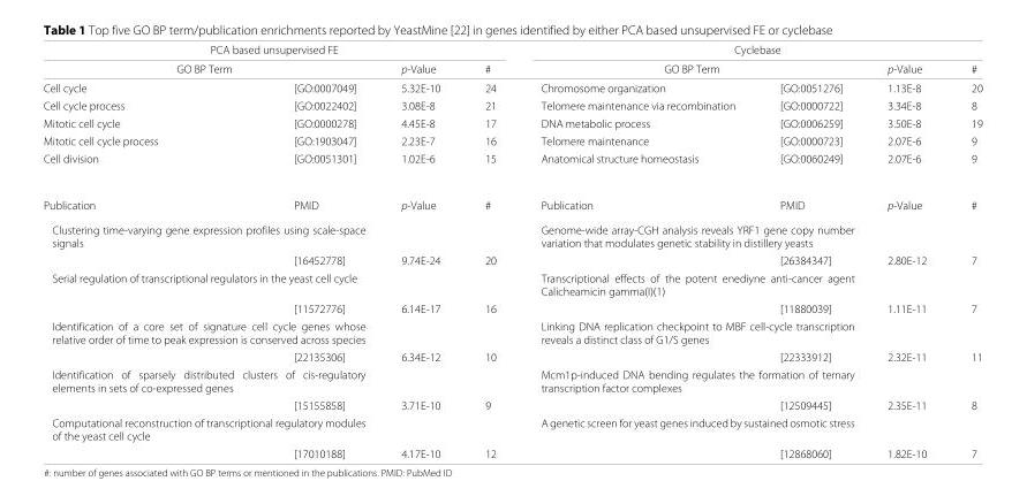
<table><thead><tr><td colspan="4">PCA based unsupervised FE</td><td colspan="4">Cyclebase</td></tr><tr><td colspan="2">GO BP Term</td><td rowspan="2">p-Value 5.32E-10</td><td rowspan="2"># 24</td><td colspan="2">GO BP Term</td><td rowspan="2">p-Value 1.13E-8</td><td rowspan="2"># 20</td></tr><tr><td>Cell cycle</td><td>[GO:0007049]</td><td>Chromosome organization</td><td>[GO:0051276]</td></tr></thead><tbody><tr><td>Cell cycle process</td><td>[GO:0022402]</td><td>3.08E-8</td><td>21</td><td>Telomere maintenance via recombination</td><td>[GO:0000722]</td><td>3.34E-8</td><td>8</td></tr><tr><td>Mitotic cell cycle</td><td>[GO:0000278]</td><td>4.45E-8</td><td>17</td><td>DNA metabolic process</td><td>[GO:0006259]</td><td>3.50E-8</td><td>19</td></tr><tr><td>Mitotic cell cycle process</td><td>[GO:1903047]</td><td>2.23E-7</td><td>16</td><td>Telomere maintenance</td><td>[GO:0000723]</td><td>2.07E-6</td><td>9</td></tr><tr><td>Cell division</td><td>[GO:0051301]</td><td>1.02E-6</td><td>15</td><td>Anatomical structure homeostasis</td><td>[GO:0060249]</td><td>2.07E-6</td><td>9</td></tr><tr><td>Publication</td><td>PMID</td><td>p-Value</td><td>#</td><td>Publication</td><td>PMID</td><td>p-Value</td><td>#</td></tr><tr><td colspan="4">Clustering time-varying gene expression profiles using scale-space signals</td><td colspan="4">Genome-wide array-CGH analysis reveals YRF1 gene copy number variation that modulates genetic stability in distillery yeasts</td></tr><tr><td></td><td>[16452778]</td><td>9.74E-24</td><td>20</td><td></td><td>[26384347]</td><td>2.80E-12</td><td>7</td></tr><tr><td colspan="4">Serial regulation of transcriptional regulators in the yeast cell cycle</td><td colspan="4">Transcriptional effects of the potent enediyne anti-cancer agent Calicheamicin gamma(I)(1)</td></tr><tr><td></td><td>[11572776]</td><td>6.14E-17</td><td>16</td><td></td><td>[11880039]</td><td>1.11E-11</td><td>7</td></tr><tr><td colspan="4">Identification of a core set of signature cell cycle genes whose relative order of time to peak expression is conserved across species</td><td colspan="4">Linking DNA replication checkpoint to MBF cell-cycle transcription reveals a distinct class of G1/S genes</td></tr><tr><td></td><td>[22135306]</td><td>6.34E-12</td><td>10</td><td></td><td>[22333912]</td><td>2.32E-11</td><td>11</td></tr><tr><td colspan="4">Identification of sparsely distributed clusters of cis-regulatory elements in sets of co-expressed genes</td><td colspan="4">Mcm1p-induced DNA bending regulates the formation of ternary transcription factor complexes</td></tr><tr><td></td><td>[15155858]</td><td>3.71E-10</td><td>9</td><td></td><td>[12509445]</td><td>2.35E-11</td><td>8</td></tr><tr><td colspan="4">Computational reconstruction of transcriptional regulatory modules of the yeast cell cycle</td><td colspan="4">A genetic screen for yeast genes induced by sustained osmotic stress</td></tr><tr><td></td><td>[17010188]</td><td>4.17E-10</td><td>12</td><td></td><td>[12868060]</td><td>1.82E-10</td><td>7</td></tr></tbody></table>